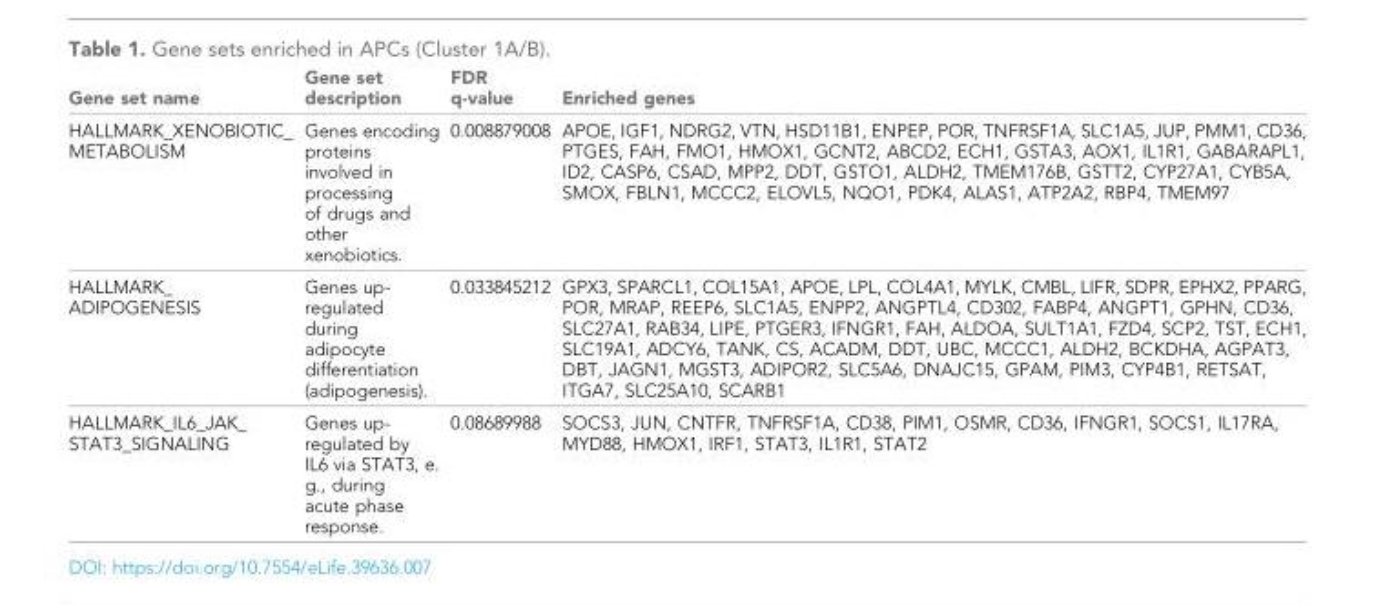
<table><thead><tr><td>Gene set name</td><td>Gene set description</td><td>FDR q-value</td><td>Enriched genes</td></tr></thead><tbody><tr><td>HALLMARK_XENOBIOTIC_ METABOLISM</td><td>Genes encoding proteins involved in processing of drugs and other xenobiotics.</td><td>0.008879008</td><td>APOE, IGF1, NDRG2, VTN, HSD11B1, ENPEP, POR, TNFRSF1A, SLC1A5, JUP, PMM1, CD36, PTGES, FAH, FMO1, HMOX1, GCNT2, ABCD2, ECH1, GSTA3, AOX1, IL1R1, GABARAPL1, ID2, CASP6, CSAD, MPP2, DDT, GSTO1, ALDH2, TMEM176B, GSTT2, CYP27A1, CYB5A, SMOX, FBLN1, MCCC2, ELOVL5, NQO1, PDK4, ALAS1, ATP2A2, RBP4, TMEM97</td></tr><tr><td>HALLMARK_ ADIPOGENESIS</td><td>Genes up- regulated during adipocyte differentiation (adipogenesis).</td><td>0.033845212</td><td>GPX3, SPARCL1, COL15A1, APOE, LPL, COL4A1, MYLK, CMBL, LIFR, SDPR, EPHX2, PPARG, POR, MRAP, REEP6, SLC1A5, ENPP2, ANGPTL4, CD302, FABP4, ANGPT1, GPHN, CD36, SLC27A1, RAB34, LIPE, PTGER3, IFNGR1, FAH, ALDOA, SULT1A1, FZD4, SCP2, TST, ECH1, SLC19A1, ADCY6, TANK, CS, ACADM, DDT, UBC, MCCC1, ALDH2, BCKDHA, AGPAT3, DBT, JAGN1, MGST3, ADIPOR2, SLC5A6, DNAJC15, GPAM, PIM3, CYP4B1, RETSAT, ITGA7, SLC25A10, SCARB1</td></tr><tr><td>HALLMARK_IL6_JAK_ STAT3_SIGNALING</td><td>Genes up- regulated by IL6 via STAT3, e. g., during acute phase response.</td><td>0.08689988</td><td>SOCS3, JUN, CNTFR, TNFRSF1A, CD38, PIM1, OSMR, CD36, IFNGR1, SOCS1, IL17RA, MYD88, HMOX1, IRF1, STAT3, IL1R1, STAT2</td></tr></tbody></table>